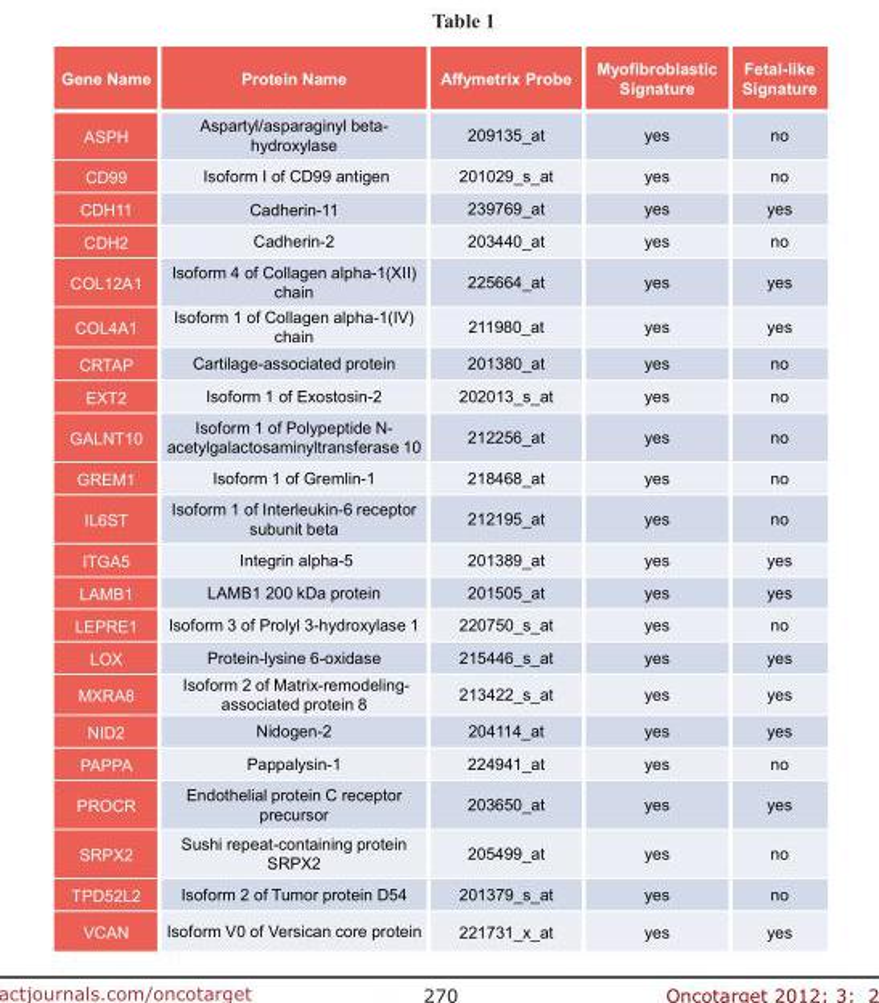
<table><thead><tr><td>Gene Name</td><td>Protein Name</td><td>Affymetrix Probe</td><td>Myofibroblastic Signature</td><td>Fetal-like Signature</td></tr></thead><tbody><tr><td>ASPH</td><td>Aspartyl/asparaginyl beta- hydroxylase</td><td>209135_at</td><td>yes</td><td>no</td></tr><tr><td>CD99</td><td>Isoform I of CD99 antigen</td><td>201029_s_at</td><td>yes</td><td>no</td></tr><tr><td>CDH11</td><td>Cadherin-11</td><td>239769_at</td><td>yes</td><td>yes</td></tr><tr><td>CDH2</td><td>Cadherin-2</td><td>203440_at</td><td>yes</td><td>no</td></tr><tr><td>COL12A1</td><td>Isoform 4 of Collagen alpha-1(XII) chain</td><td>225664_at</td><td>yes</td><td>yes</td></tr><tr><td>COL4A1</td><td>Isoform 1 of Collagen alpha-1(IV) chain</td><td>211980_at</td><td>yes</td><td>yes</td></tr><tr><td>CRTAP</td><td>Cartilage-associated protein</td><td>201380_at</td><td>yes</td><td>no</td></tr><tr><td>EXT2</td><td>Isoform 1 of Exostosin-2</td><td>202013_s_at</td><td>yes</td><td>no</td></tr><tr><td>GALNT10</td><td>Isoform 1 of Polypeptide N- acetylgalactosaminyltransferase 10</td><td>212256_at</td><td>yes</td><td>no</td></tr><tr><td>GREM1</td><td>Isoform 1 of Gremlin-1</td><td>218468_at</td><td>yes</td><td>no</td></tr><tr><td>IL6ST</td><td>Isoform 1 of Interleukin-6 receptor subunit beta</td><td>212195_at</td><td>yes</td><td>no</td></tr><tr><td>ITGA5</td><td>Integrin alpha-5</td><td>201389_at</td><td>yes</td><td>yes</td></tr><tr><td>LAMB1</td><td>LAMB1 200 kDa protein</td><td>201505_at</td><td>yes</td><td>yes</td></tr><tr><td>LEPRE1</td><td>Isoform 3 of Prolyl 3-hydroxylase 1</td><td>220750_s_at</td><td>yes</td><td>no</td></tr><tr><td>LOX</td><td>Protein-lysine 6-oxidase</td><td>215446_s_at</td><td>yes</td><td>yes</td></tr><tr><td>MXRA8</td><td>Isoform 2 of Matrix-remodeling- associated protein 8</td><td>213422_s_at</td><td>yes</td><td>yes</td></tr><tr><td>NID2</td><td>Nidogen-2</td><td>204114_at</td><td>yes</td><td>yes</td></tr><tr><td>PAPPA</td><td>Pappalysin-1</td><td>224941_at</td><td>yes</td><td>no</td></tr><tr><td>PROCR</td><td>Endothelial protein C receptor precursor</td><td>203650_at</td><td>yes</td><td>yes</td></tr><tr><td>SRPX2</td><td>Sushi repeat-containing protein SRPX2</td><td>205499_at</td><td>yes</td><td>no</td></tr><tr><td>TPD52L2</td><td>Isoform 2 of Tumor protein D54</td><td>201379_s_at</td><td>yes</td><td>no</td></tr><tr><td>VCAN</td><td>Isoform V0 of Versican core protein</td><td>221731_x_at</td><td>yes</td><td>yes</td></tr></tbody></table>